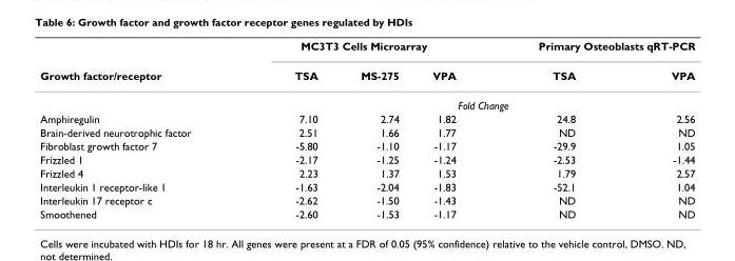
<table><thead><tr><td rowspan="2">Growth factor/receptor</td><td colspan="3">MC3T3 Cells Microarray</td><td colspan="2">Primary Osteoblasts qRT-PCR</td></tr><tr><td>TSA</td><td>MS-275</td><td>VPA</td><td>TSA</td><td>VPA</td></tr></thead><tbody><tr><td></td><td colspan="5">Fold Change</td></tr><tr><td>Amphiregulin</td><td>7.10</td><td>2.74</td><td>1.82</td><td>24.8</td><td>2.56</td></tr><tr><td>Brain-derived neurotrophic factor</td><td>2.51</td><td>1.66</td><td>1.77</td><td>ND</td><td>ND</td></tr><tr><td>Fibroblast growth factor 7</td><td>-5.80</td><td>-1.10</td><td>-1.17</td><td>-29.9</td><td>1.05</td></tr><tr><td>Frizzled 1</td><td>-2.17</td><td>-1.25</td><td>-1.24</td><td>-2.53</td><td>-1.44</td></tr><tr><td>Frizzled 4</td><td>2.23</td><td>1.37</td><td>1.53</td><td>1.79</td><td>2.57</td></tr><tr><td>Interleukin 1 receptor-like 1</td><td>-1.63</td><td>-2.04</td><td>-1.83</td><td>-52.1</td><td>1.04</td></tr><tr><td>Interleukin 17 receptor c</td><td>-2.62</td><td>-1.50</td><td>-1.43</td><td>ND</td><td>ND</td></tr><tr><td>Smoothened</td><td>-2.60</td><td>-1.53</td><td>-1.17</td><td>ND</td><td>ND</td></tr></tbody></table>